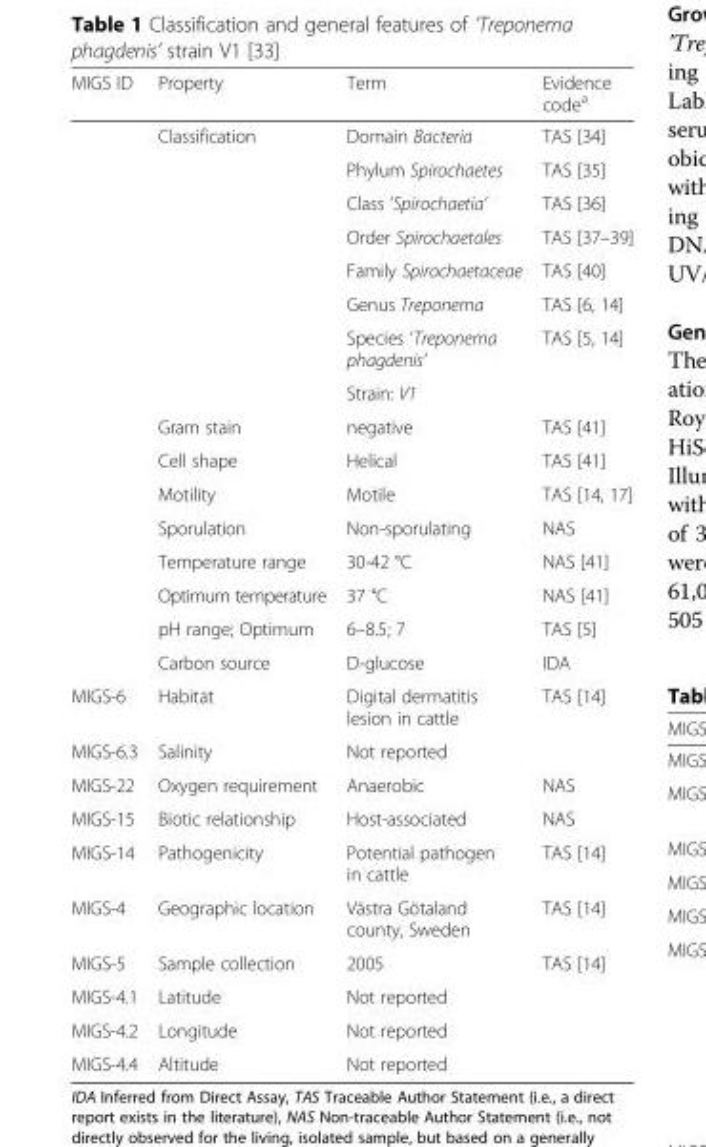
<table><thead><tr><td>MIGS ID</td><td>Property</td><td>Term</td><td>Evidence code<sup>a</sup></td></tr></thead><tbody><tr><td></td><td>Classification</td><td>Domain Bacteria</td><td>TAS [34]</td></tr><tr><td></td><td></td><td>Phylum Spirochaetes</td><td>TAS [35]</td></tr><tr><td></td><td></td><td>Class ‘Spirochaetia’</td><td>TAS [36]</td></tr><tr><td></td><td></td><td>Order Spirochaetales</td><td>TAS [37–39]</td></tr><tr><td></td><td></td><td>Family Spirochaetaceae</td><td>TAS [40]</td></tr><tr><td></td><td></td><td>Genus Treponema</td><td>TAS [6, 14]</td></tr><tr><td></td><td></td><td>Species ‘Treponema phagdenis’</td><td>TAS [5, 14]</td></tr><tr><td></td><td></td><td>Strain: V1</td><td></td></tr><tr><td></td><td>Gram stain</td><td>negative</td><td>TAS [41]</td></tr><tr><td></td><td>Cell shape</td><td>Helical</td><td>TAS [41]</td></tr><tr><td></td><td>Motility</td><td>Motile</td><td>TAS [14, 17]</td></tr><tr><td></td><td>Sporulation</td><td>Non-sporulating</td><td>NAS</td></tr><tr><td></td><td>Temperature range</td><td>30-42 °C</td><td>NAS [41]</td></tr><tr><td></td><td>Optimum temperature</td><td>37 °C</td><td>NAS [41]</td></tr><tr><td></td><td>pH range; Optimum</td><td>6–8.5; 7</td><td>TAS [5]</td></tr><tr><td></td><td>Carbon source</td><td>D-glucose</td><td>IDA</td></tr><tr><td>MIGS-6</td><td>Habitat</td><td>Digital dermatitis lesion in cattle</td><td>TAS [14]</td></tr><tr><td>MIGS-6.3</td><td>Salinity</td><td>Not reported</td><td></td></tr><tr><td>MIGS-22</td><td>Oxygen requirement</td><td>Anaerobic</td><td>NAS</td></tr><tr><td>MIGS-15</td><td>Biotic relationship</td><td>Host-associated</td><td>NAS</td></tr><tr><td>MIGS-14</td><td>Pathogenicity</td><td>Potential pathogen in cattle</td><td>TAS [14]</td></tr><tr><td>MIGS-4</td><td>Geographic location</td><td>Västra Götaland county, Sweden</td><td>TAS [14]</td></tr><tr><td>MIGS-5</td><td>Sample collection</td><td>2005</td><td>TAS [14]</td></tr><tr><td>MIGS-4.1</td><td>Latitude</td><td>Not reported</td><td></td></tr><tr><td>MIGS-4.2</td><td>Longitude</td><td>Not reported</td><td></td></tr><tr><td>MIGS-4.4</td><td>Altitude</td><td>Not reported</td><td></td></tr></tbody></table>